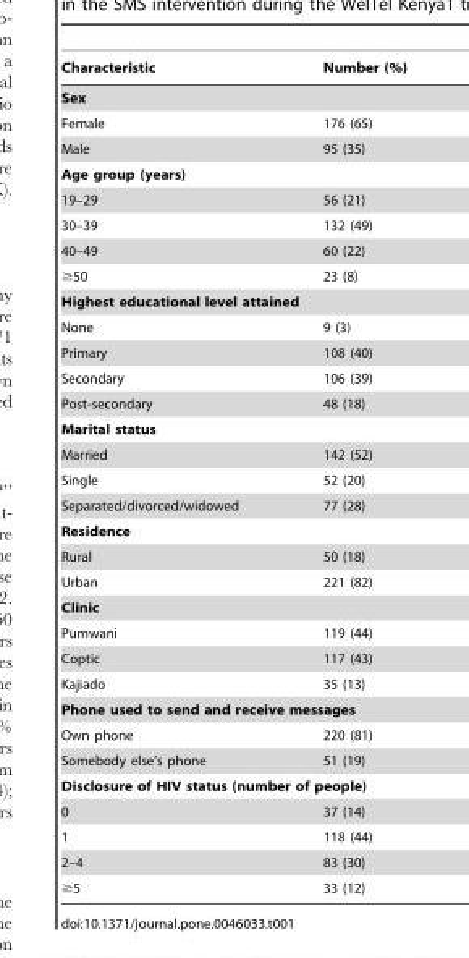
<table><thead><tr><td>Characteristic</td><td>Number (%)</td></tr></thead><tbody><tr><td colspan="2">Sex</td></tr><tr><td>Female</td><td>176 (65)</td></tr><tr><td>Male</td><td>95 (35)</td></tr><tr><td colspan="2">Age group (years)</td></tr><tr><td>19–29</td><td>56 (21)</td></tr><tr><td>30–39</td><td>132 (49)</td></tr><tr><td>40–49</td><td>60 (22)</td></tr><tr><td>≥50</td><td>23 (8)</td></tr><tr><td colspan="2">Highest educational level attained</td></tr><tr><td>None</td><td>9 (3)</td></tr><tr><td>Primary</td><td>108 (40)</td></tr><tr><td>Secondary</td><td>106 (39)</td></tr><tr><td>Post-secondary</td><td>48 (18)</td></tr><tr><td colspan="2">Marital status</td></tr><tr><td>Married</td><td>142 (52)</td></tr><tr><td>Single</td><td>52 (20)</td></tr><tr><td>Separated/divorced/widowed</td><td>77 (28)</td></tr><tr><td colspan="2">Residence</td></tr><tr><td>Rural</td><td>50 (18)</td></tr><tr><td>Urban</td><td>221 (82)</td></tr><tr><td colspan="2">Clinic</td></tr><tr><td>Pumwani</td><td>119 (44)</td></tr><tr><td>Coptic</td><td>117 (43)</td></tr><tr><td>Kajiado</td><td>35 (13)</td></tr><tr><td colspan="2">Phone used to send and receive messages</td></tr><tr><td>Own phone</td><td>220 (81)</td></tr><tr><td>Somebody else’s phone</td><td>51 (19)</td></tr><tr><td colspan="2">Disclosure of HIV status (number of people)</td></tr><tr><td>0</td><td>37 (14)</td></tr><tr><td>1</td><td>118 (44)</td></tr><tr><td>2–4</td><td>83 (30)</td></tr><tr><td>≥5</td><td>33 (12)</td></tr></tbody></table>